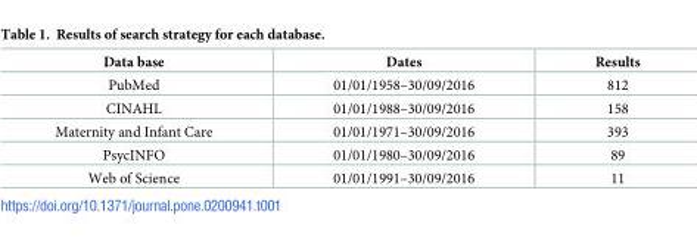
<table><thead><tr><td>Data base</td><td>Dates</td><td>Results</td></tr></thead><tbody><tr><td>PubMed</td><td>01/01/1958–30/09/2016</td><td>812</td></tr><tr><td>CINAHL</td><td>01/01/1988–30/09/2016</td><td>158</td></tr><tr><td>Maternity and Infant Care</td><td>01/01/1971–30/09/2016</td><td>393</td></tr><tr><td>PsycINFO</td><td>01/01/1980–30/09/2016</td><td>89</td></tr><tr><td>Web of Science</td><td>01/01/1991–30/09/2016</td><td>11</td></tr></tbody></table>